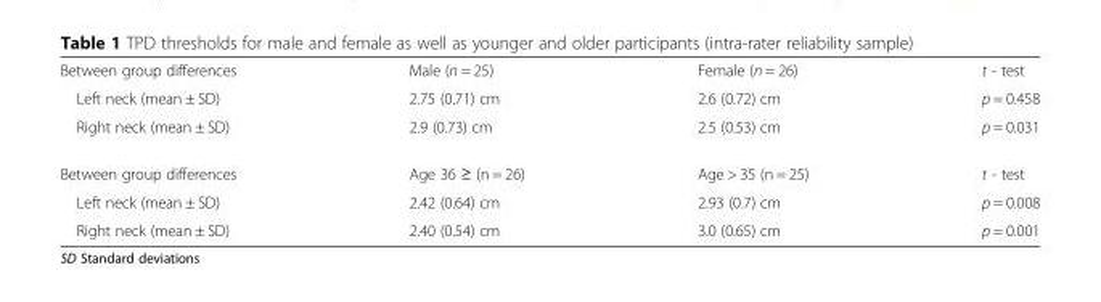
<table><tbody><tr><td>Between group differences</td><td>Male (n = 25)</td><td>Female (n = 26)</td><td>t - test</td></tr><tr><td>Left neck (mean ± SD)</td><td>2.75 (0.71) cm</td><td>2.6 (0.72) cm</td><td>p = 0.458</td></tr><tr><td>Right neck (mean ± SD)</td><td>2.9 (0.73) cm</td><td>2.5 (0.53) cm</td><td>p = 0.031</td></tr><tr><td>Between group differences</td><td>Age 36 ≥ (n = 26)</td><td>Age &gt; 35 (n = 25)</td><td>t - test</td></tr><tr><td>Left neck (mean ± SD)</td><td>2.42 (0.64) cm</td><td>2.93 (0.7) cm</td><td>p = 0.008</td></tr><tr><td>Right neck (mean ± SD)</td><td>2.40 (0.54) cm</td><td>3.0 (0.65) cm</td><td>p = 0.001</td></tr></tbody></table>